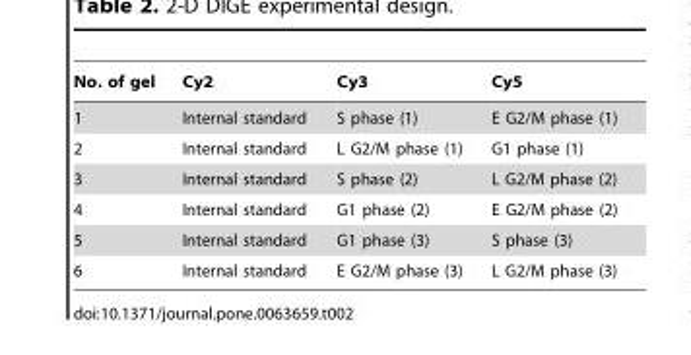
<table><thead><tr><td>No. of gel</td><td>Cy2</td><td>Cy3</td><td>Cy5</td></tr></thead><tbody><tr><td>1</td><td>Internal standard</td><td>S phase (1)</td><td>E G2/M phase (1)</td></tr><tr><td>2</td><td>Internal standard</td><td>L G2/M phase (1)</td><td>G1 phase (1)</td></tr><tr><td>3</td><td>Internal standard</td><td>S phase (2)</td><td>L G2/M phase (2)</td></tr><tr><td>4</td><td>Internal standard</td><td>G1 phase (2)</td><td>E G2/M phase (2)</td></tr><tr><td>5</td><td>Internal standard</td><td>G1 phase (3)</td><td>S phase (3)</td></tr><tr><td>6</td><td>Internal standard</td><td>E G2/M phase (3)</td><td>L G2/M phase (3)</td></tr></tbody></table>